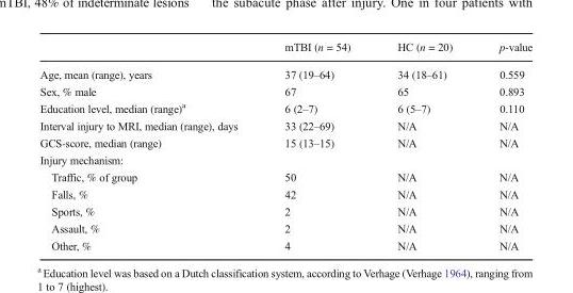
<table><thead><tr><td></td><td>mTBI (n = 54)</td><td>HC (n = 20)</td><td>p-value</td></tr></thead><tbody><tr><td>Age, mean (range), years</td><td>37 (19–64)</td><td>34 (18–61)</td><td>0.559</td></tr><tr><td>Sex, % male</td><td>67</td><td>65</td><td>0.893</td></tr><tr><td>Education level, median (range)<sup>a</sup></td><td>6 (2–7)</td><td>6 (5–7)</td><td>0.110</td></tr><tr><td>Interval injury to MRI, median (range), days</td><td>33 (22–69)</td><td>N/A</td><td>N/A</td></tr><tr><td>GCS-score, median (range)</td><td>15 (13–15)</td><td>N/A</td><td>N/A</td></tr><tr><td colspan="4">Injury mechanism:</td></tr><tr><td>Traffic, % of group</td><td>50</td><td>N/A</td><td>N/A</td></tr><tr><td>Falls, %</td><td>42</td><td>N/A</td><td>N/A</td></tr><tr><td>Sports, %</td><td>2</td><td>N/A</td><td>N/A</td></tr><tr><td>Assault, %</td><td>2</td><td>N/A</td><td>N/A</td></tr><tr><td>Other, %</td><td>4</td><td>N/A</td><td>N/A</td></tr></tbody></table>